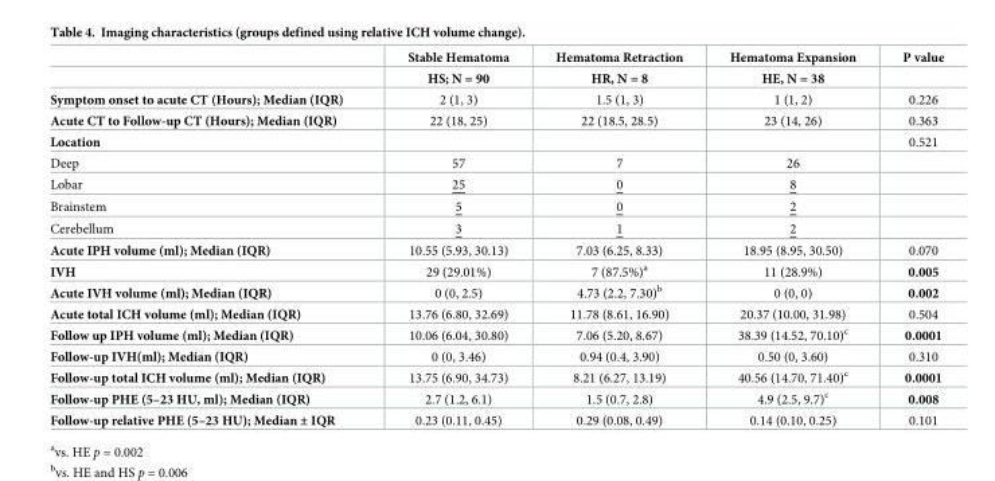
<table><thead><tr><td rowspan="2"></td><td rowspan="2">Stable Hematoma HS; N = 90</td><td rowspan="2">Hematoma Retraction HR, N = 8</td><td rowspan="2">Hematoma Expansion HE, N = 38</td><td rowspan="2">P value</td></tr><tr></tr></thead><tbody><tr><td>Symptom onset to acute CT (Hours); Median (IQR)</td><td>2 (1, 3)</td><td>1.5 (1, 3)</td><td>1 (1, 2)</td><td>0.226</td></tr><tr><td>Acute CT to Follow-up CT (Hours); Median (IQR)</td><td>22 (18, 25)</td><td>22 (18.5, 28.5)</td><td>23 (14, 26)</td><td>0.363</td></tr><tr><td>Location</td><td></td><td></td><td></td><td>0.521</td></tr><tr><td>Deep</td><td>57</td><td>7</td><td>26</td><td></td></tr><tr><td>Lobar</td><td>25</td><td>0</td><td>8</td><td></td></tr><tr><td>Brainstem</td><td>5</td><td>0</td><td>2</td><td></td></tr><tr><td>Cerebellum</td><td>3</td><td>1</td><td>2</td><td></td></tr><tr><td>Acute IPH volume (ml); Median (IQR)</td><td>10.55 (5.93, 30.13)</td><td>7.03 (6.25, 8.33)</td><td>18.95 (8.95, 30.50)</td><td>0.070</td></tr><tr><td>IVH</td><td>29 (29.01%)</td><td>7 (87.5%)<sup>a</sup></td><td>11 (28.9%)</td><td>0.005</td></tr><tr><td>Acute IVH volume (ml); Median (IQR)</td><td>0 (0, 2.5)</td><td>4.73 (2.2, 7.30)<sup>b</sup></td><td>0 (0, 0)</td><td>0.002</td></tr><tr><td>Acute total ICH volume (ml); Median (IQR)</td><td>13.76 (6.80, 32.69)</td><td>11.78 (8.61, 16.90)</td><td>20.37 (10.00, 31.98)</td><td>0.504</td></tr><tr><td>Follow up IPH volume (ml); Median (IQR)</td><td>10.06 (6.04, 30.80)</td><td>7.06 (5.20, 8.67)</td><td>38.39 (14.52, 70.10)<sup>c</sup></td><td>0.0001</td></tr><tr><td>Follow-up IVH(ml); Median (IQR)</td><td>0 (0, 3.46)</td><td>0.94 (0.4, 3.90)</td><td>0.50 (0, 3.60)</td><td>0.310</td></tr><tr><td>Follow-up total ICH volume (ml); Median (IQR)</td><td>13.75 (6.90, 34.73)</td><td>8.21 (6.27, 13.19)</td><td>40.56 (14.70, 71.40)<sup>c</sup></td><td>0.0001</td></tr><tr><td>Follow-up PHE (5–23 HU, ml); Median (IQR)</td><td>2.7 (1.2, 6.1)</td><td>1.5 (0.7, 2.8)</td><td>4.9 (2.5, 9.7)<sup>c</sup></td><td>0.008</td></tr><tr><td>Follow-up relative PHE (5–23 HU); Median ± IQR</td><td>0.23 (0.11, 0.45)</td><td>0.29 (0.08, 0.49)</td><td>0.14 (0.10, 0.25)</td><td>0.101</td></tr></tbody></table>